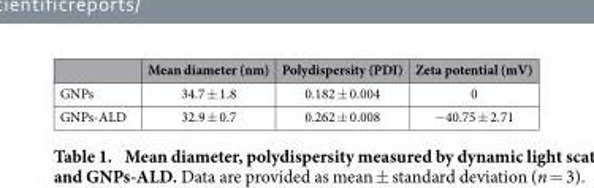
<table><thead><tr><td></td><td>Mean diameter (nm)</td><td>Polydispersity (PDI)</td><td>Zeta potential (mV)</td></tr></thead><tbody><tr><td>GNPs</td><td>34.7 ± 1.8</td><td>0.182 ± 0.004</td><td>0</td></tr><tr><td>GNPs-ALD</td><td>32.9 ± 0.7</td><td>0.262 ± 0.008</td><td>− 40.75 ± 2.71</td></tr></tbody></table>